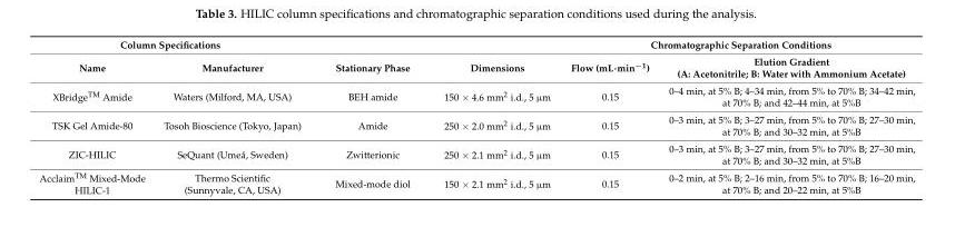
<table><thead><tr><td colspan="2">Column Specifications</td><td rowspan="2">Stationary Phase</td><td rowspan="2">Dimensions</td><td colspan="2">Chromatographic Separation Conditions</td></tr><tr><td>Name</td><td>Manufacturer</td><td>Flow (mL·min<sup>−1</sup>)</td><td>Elution Gradient (A: Acetonitrile; B: Water with Ammonium Acetate)</td></tr></thead><tbody><tr><td>XBridge<sup>TM</sup> Amide</td><td>Waters (Milford, MA, USA)</td><td>BEH amide</td><td>150 × 4.6 mm<sup>2</sup> i.d., 5 µm</td><td>0.15</td><td>0–4 min, at 5% B; 4–34 min, from 5% to 70% B; 34–42 min, at 70% B; and 42–44 min, at 5%B</td></tr><tr><td>TSK Gel Amide-80</td><td>Tosoh Bioscience (Tokyo, Japan)</td><td>Amide</td><td>250 × 2.0 mm<sup>2</sup> i.d., 5 µm</td><td>0.15</td><td>0–3 min, at 5% B; 3–27 min, from 5% to 70% B; 27–30 min, at 70% B; and 30–32 min, at 5%B</td></tr><tr><td>ZIC-HILIC</td><td>SeQuant (Umeå, Sweden)</td><td>Zwitterionic</td><td>250 × 2.1 mm<sup>2</sup> i.d., 5 µm</td><td>0.15</td><td>0–3 min, at 5% B; 3–27 min, from 5% to 70% B; 27–30 min, at 70% B; and 30–32 min, at 5%B</td></tr><tr><td>Acclaim<sup>TM</sup> Mixed-Mode HILIC-1</td><td>Thermo Scientific (Sunnyvale, CA, USA)</td><td>Mixed-mode diol</td><td>150 × 2.1 mm<sup>2</sup> i.d., 5 µm</td><td>0.15</td><td>0–2 min, at 5% B; 2–16 min, from 5% to 70% B; 16–20 min, at 70% B; and 20–22 min, at 5%B</td></tr></tbody></table>